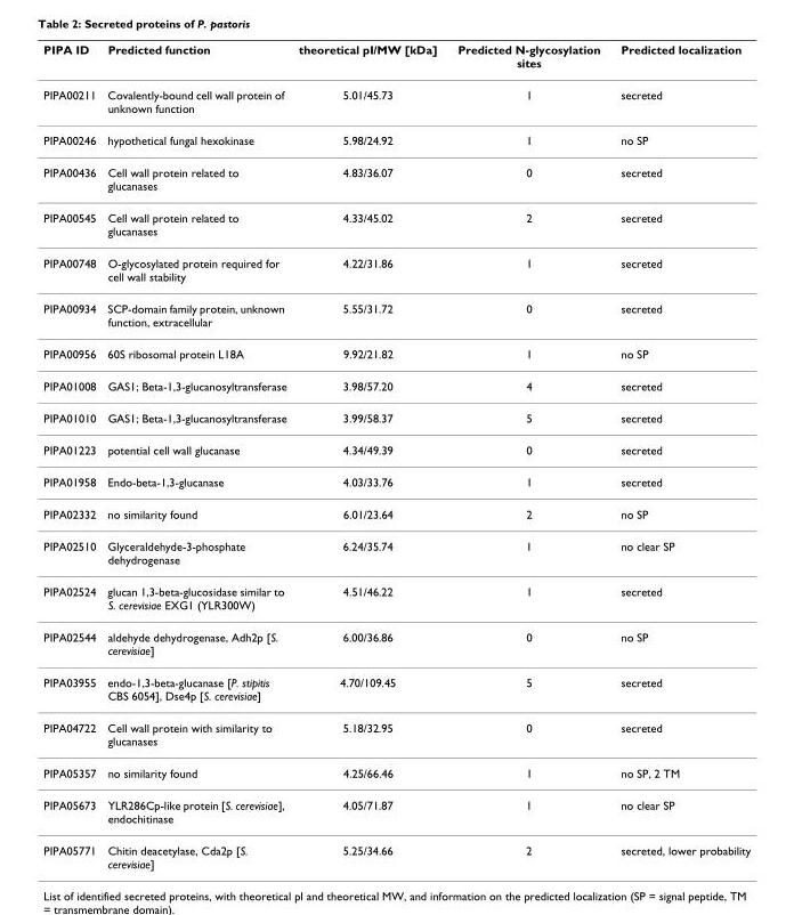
<table><thead><tr><td>PIPA ID</td><td>Predicted function</td><td>theoretical pI/MW [kDa]</td><td>Predicted N-glycosylation sites</td><td>Predicted localization</td></tr></thead><tbody><tr><td>PIPA00211</td><td>Covalently-bound cell wall protein of unknown function</td><td>5.01/45.73</td><td>1</td><td>secreted</td></tr><tr><td>PIPA00246</td><td>hypothetical fungal hexokinase</td><td>5.98/24.92</td><td>1</td><td>no SP</td></tr><tr><td>PIPA00436</td><td>Cell wall protein related to glucanases</td><td>4.83/36.07</td><td>0</td><td>secreted</td></tr><tr><td>PIPA00545</td><td>Cell wall protein related to glucanases</td><td>4.33/45.02</td><td>2</td><td>secreted</td></tr><tr><td>PIPA00748</td><td>O-glycosylated protein required for cell wall stability</td><td>4.22/31.86</td><td>1</td><td>secreted</td></tr><tr><td>PIPA00934</td><td>SCP-domain family protein, unknown function, extracellular</td><td>5.55/31.72</td><td>0</td><td>secreted</td></tr><tr><td>PIPA00956</td><td>60S ribosomal protein L18A</td><td>9.92/21.82</td><td>1</td><td>no SP</td></tr><tr><td>PIPA01008</td><td>GAS1; Beta-1,3-glucanosyltransferase</td><td>3.98/57.20</td><td>4</td><td>secreted</td></tr><tr><td>PIPA01010</td><td>GAS1; Beta-1,3-glucanosyltransferase</td><td>3.99/58.37</td><td>5</td><td>secreted</td></tr><tr><td>PIPA01223</td><td>potential cell wall glucanase</td><td>4.34/49.39</td><td>0</td><td>secreted</td></tr><tr><td>PIPA01958</td><td>Endo-beta-1,3-glucanase</td><td>4.03/33.76</td><td>1</td><td>secreted</td></tr><tr><td>PIPA02332</td><td>no similarity found</td><td>6.01/23.64</td><td>2</td><td>no SP</td></tr><tr><td>PIPA02510</td><td>Glyceraldehyde-3-phosphate dehydrogenase</td><td>6.24/35.74</td><td>1</td><td>no clear SP</td></tr><tr><td>PIPA02524</td><td>glucan 1,3-beta-glucosidase similar to S. cerevisiae EXG1 (YLR300W)</td><td>4.51/46.22</td><td>1</td><td>secreted</td></tr><tr><td>PIPA02544</td><td>aldehyde dehydrogenase, Adh2p [S. cerevisiae]</td><td>6.00/36.86</td><td>0</td><td>no SP</td></tr><tr><td>PIPA03955</td><td>endo-1,3-beta-glucanase [P. stipitis CBS 6054], Dse4p [S. cerevisiae]</td><td>4.70/109.45</td><td>5</td><td>secreted</td></tr><tr><td>PIPA04722</td><td>Cell wall protein with similarity to glucanases</td><td>5.18/32.95</td><td>0</td><td>secreted</td></tr><tr><td>PIPA05357</td><td>no similarity found</td><td>4.25/66.46</td><td>1</td><td>no SP, 2 TM</td></tr><tr><td>PIPA05673</td><td>YLR286Cp-like protein [S. cerevisiae], endochitinase</td><td>4.05/71.87</td><td>1</td><td>no clear SP</td></tr><tr><td>PIPA05771</td><td>Chitin deacetylase, Cda2p [S. cerevisiae]</td><td>5.25/34.66</td><td>2</td><td>secreted, lower probability</td></tr></tbody></table>